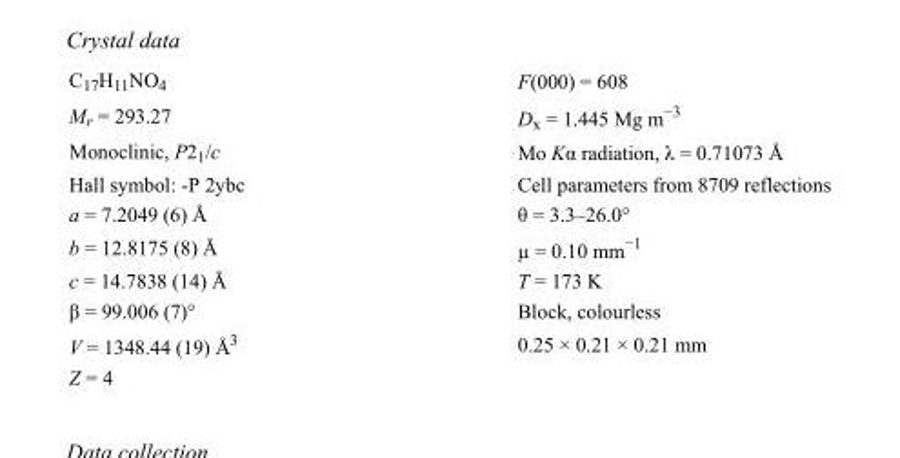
<table><tbody><tr><td>C<sub>17</sub>H<sub>11</sub>NO<sub>4</sub></td><td>F(000) = 608</td></tr><tr><td>M<sub>r</sub> = 293.27</td><td>D<sub>x</sub> = 1.445 Mg m<sup>−3</sup></td></tr><tr><td>Monoclinic, P2<sub>1</sub>/c</td><td>Mo Kα radiation, λ = 0.71073 Å</td></tr><tr><td>Hall symbol: -P 2ybc</td><td>Cell parameters from 8709 reflections</td></tr><tr><td>a = 7.2049 (6) Å</td><td>θ = 3.3–26.0°</td></tr><tr><td>b = 12.8175 (8) Å</td><td>µ = 0.10 mm<sup>−1</sup></td></tr><tr><td>c = 14.7838 (14) Å</td><td>T = 173 K</td></tr><tr><td>β = 99.006 (7)°</td><td>Block, colourless</td></tr><tr><td>V = 1348.44 (19) Å<sup>3</sup></td><td>0.25 × 0.21 × 0.21 mm</td></tr><tr><td>Z = 4</td><td></td></tr></tbody></table>